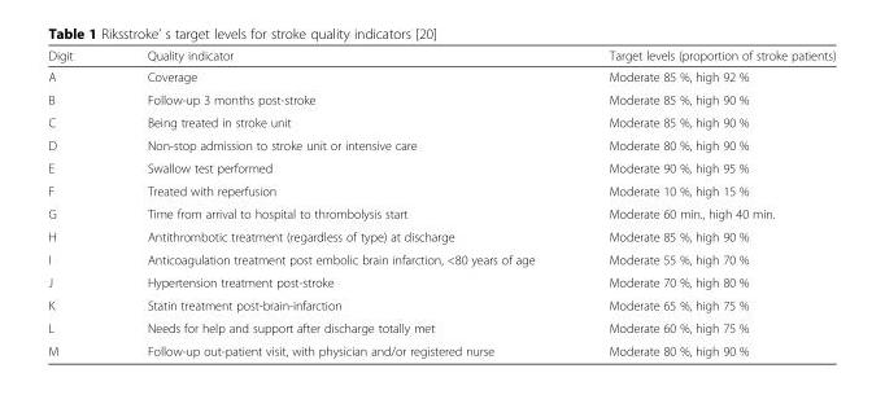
<table><thead><tr><td>Digit</td><td>Quality indicator</td><td>Target levels (proportion of stroke patients)</td></tr></thead><tbody><tr><td>A</td><td>Coverage</td><td>Moderate 85 %, high 92 %</td></tr><tr><td>B</td><td>Follow-up 3 months post-stroke</td><td>Moderate 85 %, high 90 %</td></tr><tr><td>C</td><td>Being treated in stroke unit</td><td>Moderate 85 %, high 90 %</td></tr><tr><td>D</td><td>Non-stop admission to stroke unit or intensive care</td><td>Moderate 80 %, high 90 %</td></tr><tr><td>E</td><td>Swallow test performed</td><td>Moderate 90 %, high 95 %</td></tr><tr><td>F</td><td>Treated with reperfusion</td><td>Moderate 10 %, high 15 %</td></tr><tr><td>G</td><td>Time from arrival to hospital to thrombolysis start</td><td>Moderate 60 min., high 40 min.</td></tr><tr><td>H</td><td>Antithrombotic treatment (regardless of type) at discharge</td><td>Moderate 85 %, high 90 %</td></tr><tr><td>I</td><td>Anticoagulation treatment post embolic brain infarction, &lt;80 years of age</td><td>Moderate 55 %, high 70 %</td></tr><tr><td>J</td><td>Hypertension treatment post-stroke</td><td>Moderate 70 %, high 80 %</td></tr><tr><td>K</td><td>Statin treatment post-brain-infarction</td><td>Moderate 65 %, high 75 %</td></tr><tr><td>L</td><td>Needs for help and support after discharge totally met</td><td>Moderate 60 %, high 75 %</td></tr><tr><td>M</td><td>Follow-up out-patient visit, with physician and/or registered nurse</td><td>Moderate 80 %, high 90 %</td></tr></tbody></table>